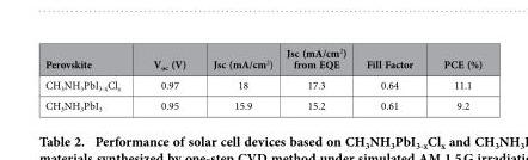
<table><thead><tr><td>Perovskite</td><td>V<sub>oc</sub> (V)</td><td>Jsc (mA/cm<sup>2</sup>)</td><td>Jsc (mA/cm<sup>2</sup>) from EQE</td><td>Fill Factor</td><td>PCE (%)</td></tr></thead><tbody><tr><td>CH<sub>3</sub>NH<sub>3</sub>PbI<sub>3-x</sub>Cl<sub>x</sub></td><td>0.97</td><td>18</td><td>17.3</td><td>0.64</td><td>11.1</td></tr><tr><td>CH<sub>3</sub>NH<sub>3</sub>PbI<sub>3</sub></td><td>0.95</td><td>15.9</td><td>15.2</td><td>0.61</td><td>9.2</td></tr></tbody></table>